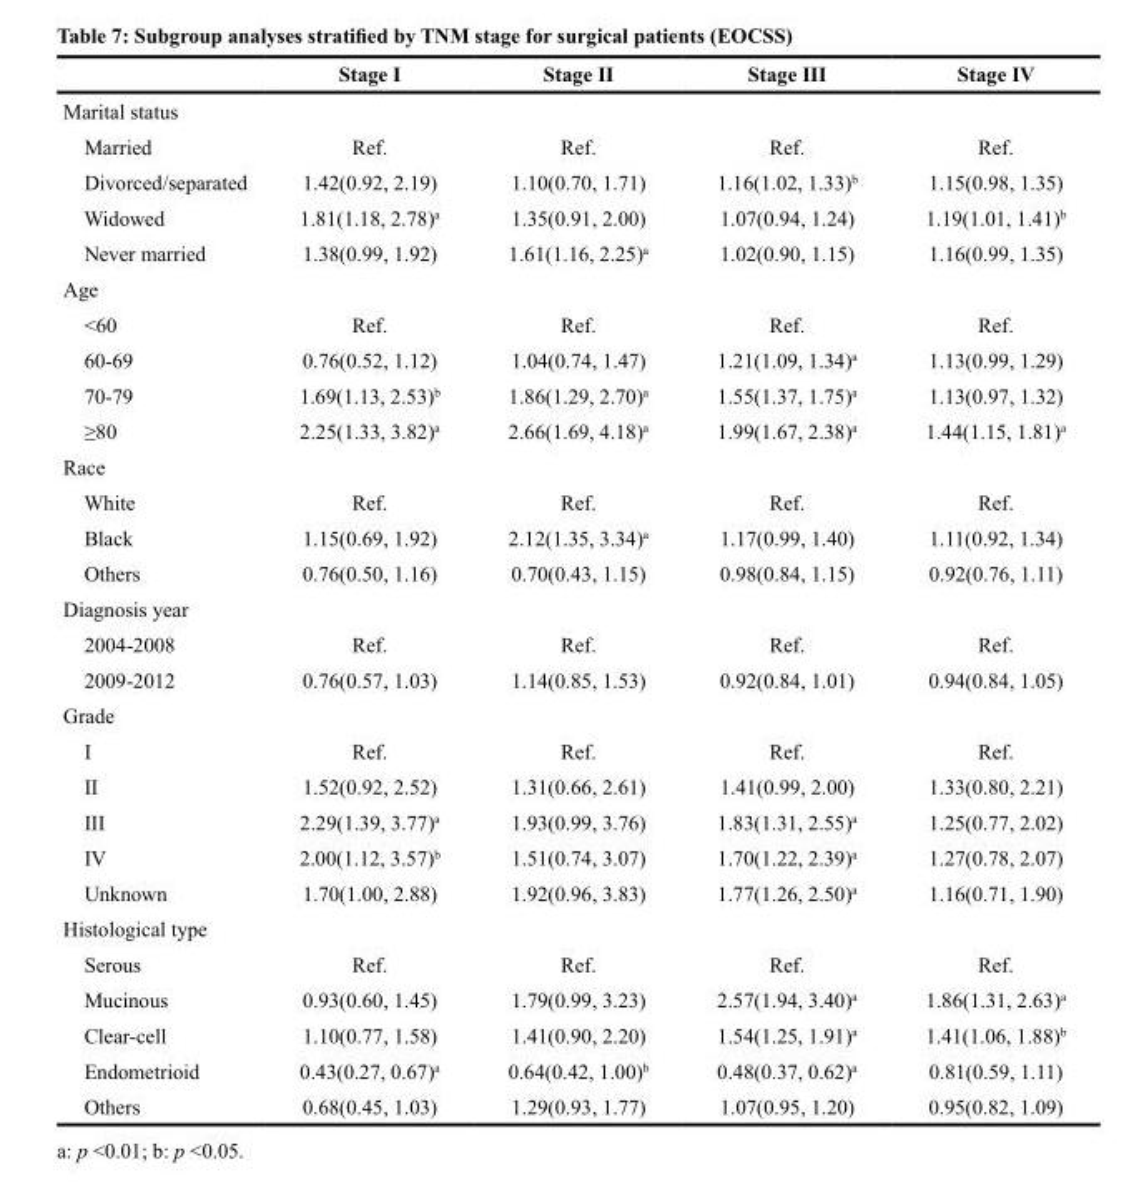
<table><thead><tr><td></td><td>Stage I</td><td>Stage II</td><td>Stage III</td><td>Stage IV</td></tr></thead><tbody><tr><td colspan="5">Marital status</td></tr><tr><td>Married</td><td>Ref.</td><td>Ref.</td><td>Ref.</td><td>Ref.</td></tr><tr><td>Divorced/separated</td><td>1.42(0.92, 2.19)</td><td>1.10(0.70, 1.71)</td><td>1.16(1.02, 1.33)<sup>b</sup></td><td>1.15(0.98, 1.35)</td></tr><tr><td>Widowed</td><td>1.81(1.18, 2.78)<sup>a</sup></td><td>1.35(0.91, 2.00)</td><td>1.07(0.94, 1.24)</td><td>1.19(1.01, 1.41)<sup>b</sup></td></tr><tr><td>Never married</td><td>1.38(0.99, 1.92)</td><td>1.61(1.16, 2.25)<sup>a</sup></td><td>1.02(0.90, 1.15)</td><td>1.16(0.99, 1.35)</td></tr><tr><td colspan="5">Age</td></tr><tr><td>&lt;60</td><td>Ref.</td><td>Ref.</td><td>Ref.</td><td>Ref.</td></tr><tr><td>60-69</td><td>0.76(0.52, 1.12)</td><td>1.04(0.74, 1.47)</td><td>1.21(1.09, 1.34)<sup>a</sup></td><td>1.13(0.99, 1.29)</td></tr><tr><td>70-79</td><td>1.69(1.13, 2.53)<sup>b</sup></td><td>1.86(1.29, 2.70)<sup>a</sup></td><td>1.55(1.37, 1.75)<sup>a</sup></td><td>1.13(0.97, 1.32)</td></tr><tr><td>≥80</td><td>2.25(1.33, 3.82)<sup>a</sup></td><td>2.66(1.69, 4.18)<sup>a</sup></td><td>1.99(1.67, 2.38)<sup>a</sup></td><td>1.44(1.15, 1.81)<sup>a</sup></td></tr><tr><td colspan="5">Race</td></tr><tr><td>White</td><td>Ref.</td><td>Ref.</td><td>Ref.</td><td>Ref.</td></tr><tr><td>Black</td><td>1.15(0.69, 1.92)</td><td>2.12(1.35, 3.34)<sup>a</sup></td><td>1.17(0.99, 1.40)</td><td>1.11(0.92, 1.34)</td></tr><tr><td>Others</td><td>0.76(0.50, 1.16)</td><td>0.70(0.43, 1.15)</td><td>0.98(0.84, 1.15)</td><td>0.92(0.76, 1.11)</td></tr><tr><td colspan="5">Diagnosis year</td></tr><tr><td>2004-2008</td><td>Ref.</td><td>Ref.</td><td>Ref.</td><td>Ref.</td></tr><tr><td>2009-2012</td><td>0.76(0.57, 1.03)</td><td>1.14(0.85, 1.53)</td><td>0.92(0.84, 1.01)</td><td>0.94(0.84, 1.05)</td></tr><tr><td colspan="5">Grade</td></tr><tr><td>I</td><td>Ref.</td><td>Ref.</td><td>Ref.</td><td>Ref.</td></tr><tr><td>II</td><td>1.52(0.92, 2.52)</td><td>1.31(0.66, 2.61)</td><td>1.41(0.99, 2.00)</td><td>1.33(0.80, 2.21)</td></tr><tr><td>III</td><td>2.29(1.39, 3.77)<sup>a</sup></td><td>1.93(0.99, 3.76)</td><td>1.83(1.31, 2.55)<sup>a</sup></td><td>1.25(0.77, 2.02)</td></tr><tr><td>IV</td><td>2.00(1.12, 3.57)<sup>b</sup></td><td>1.51(0.74, 3.07)</td><td>1.70(1.22, 2.39)<sup>a</sup></td><td>1.27(0.78, 2.07)</td></tr><tr><td>Unknown</td><td>1.70(1.00, 2.88)</td><td>1.92(0.96, 3.83)</td><td>1.77(1.26, 2.50)<sup>a</sup></td><td>1.16(0.71, 1.90)</td></tr><tr><td colspan="5">Histological type</td></tr><tr><td>Serous</td><td>Ref.</td><td>Ref.</td><td>Ref.</td><td>Ref.</td></tr><tr><td>Mucinous</td><td>0.93(0.60, 1.45)</td><td>1.79(0.99, 3.23)</td><td>2.57(1.94, 3.40)<sup>a</sup></td><td>1.86(1.31, 2.63)<sup>a</sup></td></tr><tr><td>Clear-cell</td><td>1.10(0.77, 1.58)</td><td>1.41(0.90, 2.20)</td><td>1.54(1.25, 1.91)<sup>a</sup></td><td>1.41(1.06, 1.88)<sup>b</sup></td></tr><tr><td>Endometrioid</td><td>0.43(0.27, 0.67)<sup>a</sup></td><td>0.64(0.42, 1.00)<sup>b</sup></td><td>0.48(0.37, 0.62)<sup>a</sup></td><td>0.81(0.59, 1.11)</td></tr><tr><td>Others</td><td>0.68(0.45, 1.03)</td><td>1.29(0.93, 1.77)</td><td>1.07(0.95, 1.20)</td><td>0.95(0.82, 1.09)</td></tr></tbody></table>